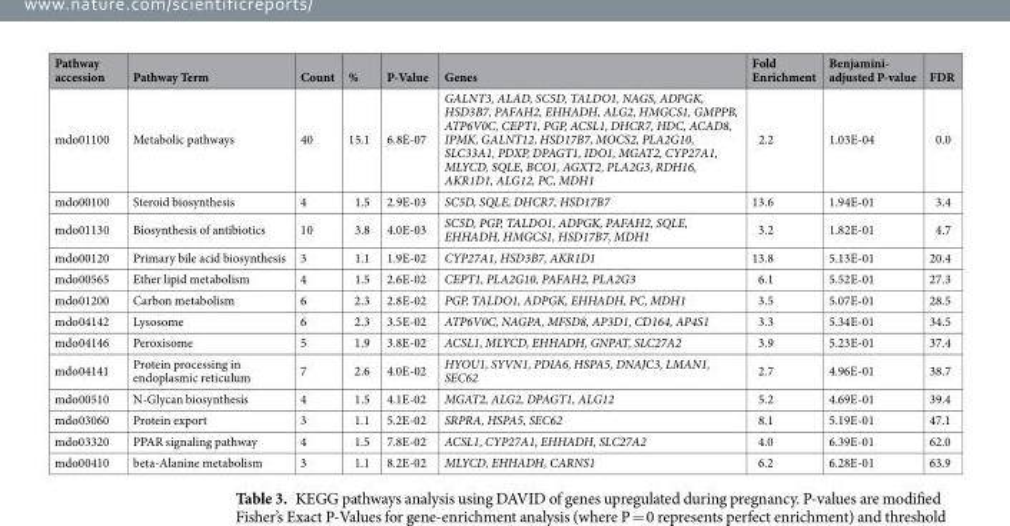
<table><thead><tr><td>Pathway accession</td><td>Pathway Term</td><td>Count</td><td>%</td><td>P-Value</td><td>Genes</td><td>Fold Enrichment</td><td>Benjamini- adjusted P-value</td><td>FDR</td></tr></thead><tbody><tr><td>mdo01100</td><td>Metabolic pathways</td><td>40</td><td>15.1</td><td>6.8E-07</td><td>GALNT3, ALAD, SC5D, TALDO1, NAGS, ADPGK, HSD3B7, PAFAH2, EHHADH, ALG2, HMGCS1, GMPPB, ATP6V0C, CEPT1, PGP, ACSL1, DHCR7, HDC, ACAD8, IPMK, GALNT12, HSD17B7, MOCS2, PLA2G10, SLC33A1, PDXP, DPAGT1, IDO1, MGAT2, CYP27A1, MLYCD, SQLE, BCO1, AGXT2, PLA2G3, RDH16, AKR1D1, ALG12, PC, MDH1</td><td>2.2</td><td>1.03E-04</td><td>0.0</td></tr><tr><td>mdo00100</td><td>Steroid biosynthesis</td><td>4</td><td>1.5</td><td>2.9E-03</td><td>SC5D, SQLE, DHCR7, HSD17B7</td><td>13.6</td><td>1.94E-01</td><td>3.4</td></tr><tr><td>mdo01130</td><td>Biosynthesis of antibiotics</td><td>10</td><td>3.8</td><td>4.0E-03</td><td>SC5D, PGP, TALDO1, ADPGK, PAFAH2, SQLE, EHHADH, HMGCS1, HSD17B7, MDH1</td><td>3.2</td><td>1.82E-01</td><td>4.7</td></tr><tr><td>mdo00120</td><td>Primary bile acid biosynthesis</td><td>3</td><td>1.1</td><td>1.9E-02</td><td>CYP27A1, HSD3B7, AKR1D1</td><td>13.8</td><td>5.13E-01</td><td>20.4</td></tr><tr><td>mdo00565</td><td>Ether lipid metabolism</td><td>4</td><td>1.5</td><td>2.6E-02</td><td>CEPT1, PLA2G10, PAFAH2, PLA2G3</td><td>6.1</td><td>5.52E-01</td><td>27.3</td></tr><tr><td>mdo01200</td><td>Carbon metabolism</td><td>6</td><td>2.3</td><td>2.8E-02</td><td>PGP, TALDO1, ADPGK, EHHADH, PC, MDH1</td><td>3.5</td><td>5.07E-01</td><td>28.5</td></tr><tr><td>mdo04142</td><td>Lysosome</td><td>6</td><td>2.3</td><td>3.5E-02</td><td>ATP6V0C, NAGPA, MFSD8, AP3D1, CD164, AP4S1</td><td>3.3</td><td>5.34E-01</td><td>34.5</td></tr><tr><td>mdo04146</td><td>Peroxisome</td><td>5</td><td>1.9</td><td>3.8E-02</td><td>ACSL1, MLYCD, EHHADH, GNPAT, SLC27A2</td><td>3.9</td><td>5.23E-01</td><td>37.4</td></tr><tr><td>mdo04141</td><td>Protein processing in endoplasmic reticulum</td><td>7</td><td>2.6</td><td>4.0E-02</td><td>HYOU1, SYVN1, PDIA6, HSPA5, DNAJC3, LMAN1, SEC62</td><td>2.7</td><td>4.96E-01</td><td>38.7</td></tr><tr><td>mdo00510</td><td>N-Glycan biosynthesis</td><td>4</td><td>1.5</td><td>4.1E-02</td><td>MGAT2, ALG2, DPAGT1, ALG12</td><td>5.2</td><td>4.69E-01</td><td>39.4</td></tr><tr><td>mdo03060</td><td>Protein export</td><td>3</td><td>1.1</td><td>5.2E-02</td><td>SRPRA, HSPA5, SEC62</td><td>8.1</td><td>5.19E-01</td><td>47.1</td></tr><tr><td>mdo03320</td><td>PPAR signaling pathway</td><td>4</td><td>1.5</td><td>7.8E-02</td><td>ACSL1, CYP27A1, EHHADH, SLC27A2</td><td>4.0</td><td>6.39E-01</td><td>62.0</td></tr><tr><td>mdo00410</td><td>beta-Alanine metabolism</td><td>3</td><td>1.1</td><td>8.2E-02</td><td>MLYCD, EHHADH, CARNS1</td><td>6.2</td><td>6.28E-01</td><td>63.9</td></tr></tbody></table>